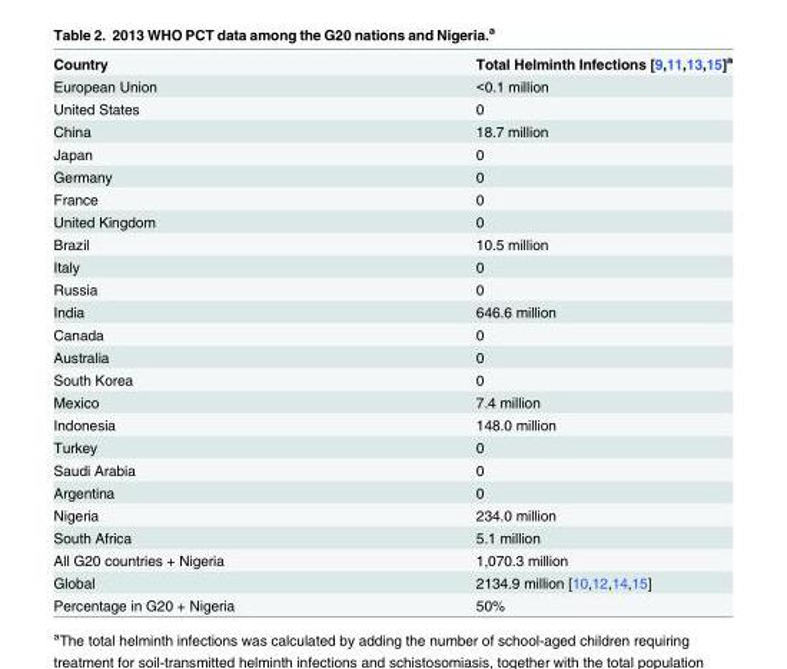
<table><tbody><tr><td>Country</td><td>Total Helminth Infections [9,11,13,15]<sup>a</sup></td></tr><tr><td>European Union</td><td>&lt;0.1 million</td></tr><tr><td>United States</td><td>0</td></tr><tr><td>China</td><td>18.7 million</td></tr><tr><td>Japan</td><td>0</td></tr><tr><td>Germany</td><td>0</td></tr><tr><td>France</td><td>0</td></tr><tr><td>United Kingdom</td><td>0</td></tr><tr><td>Brazil</td><td>10.5 million</td></tr><tr><td>Italy</td><td>0</td></tr><tr><td>Russia</td><td>0</td></tr><tr><td>India</td><td>646.6 million</td></tr><tr><td>Canada</td><td>0</td></tr><tr><td>Australia</td><td>0</td></tr><tr><td>South Korea</td><td>0</td></tr><tr><td>Mexico</td><td>7.4 million</td></tr><tr><td>Indonesia</td><td>148.0 million</td></tr><tr><td>Turkey</td><td>0</td></tr><tr><td>Saudi Arabia</td><td>0</td></tr><tr><td>Argentina</td><td>0</td></tr><tr><td>Nigeria</td><td>234.0 million</td></tr><tr><td>South Africa</td><td>5.1 million</td></tr><tr><td>All G20 countries + Nigeria</td><td>1,070.3 million</td></tr><tr><td>Global</td><td>2134.9 million [10,12,14,15]</td></tr><tr><td>Percentage in G20 + Nigeria</td><td>50%</td></tr></tbody></table>